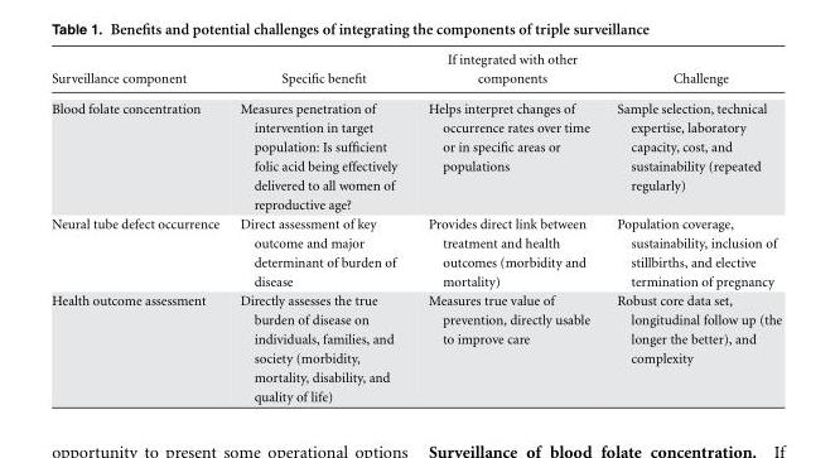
<table><thead><tr><td>Surveillance component</td><td>Specific benefit</td><td>If integrated with other components</td><td>Challenge</td></tr></thead><tbody><tr><td>Blood folate concentration</td><td>Measures penetration of intervention in target population: Is sufficient folic acid being effectively delivered to all women of reproductive age?</td><td>Helps interpret changes of occurrence rates over time or in specific areas or populations</td><td>Sample selection, technical expertise, laboratory capacity, cost, and sustainability (repeated regularly)</td></tr><tr><td>Neural tube defect occurrence</td><td>Direct assessment of key outcome and major determinant of burden of disease</td><td>Provides direct link between treatment and health outcomes (morbidity and mortality)</td><td>Population coverage, sustainability, inclusion of stillbirths, and elective termination of pregnancy</td></tr><tr><td>Health outcome assessment</td><td>Directly assesses the true burden of disease on individuals, families, and society (morbidity, mortality, disability, and quality of life)</td><td>Measures true value of prevention, directly usable to improve care</td><td>Robust core data set, longitudinal follow up (the longer the better), and complexity</td></tr></tbody></table>